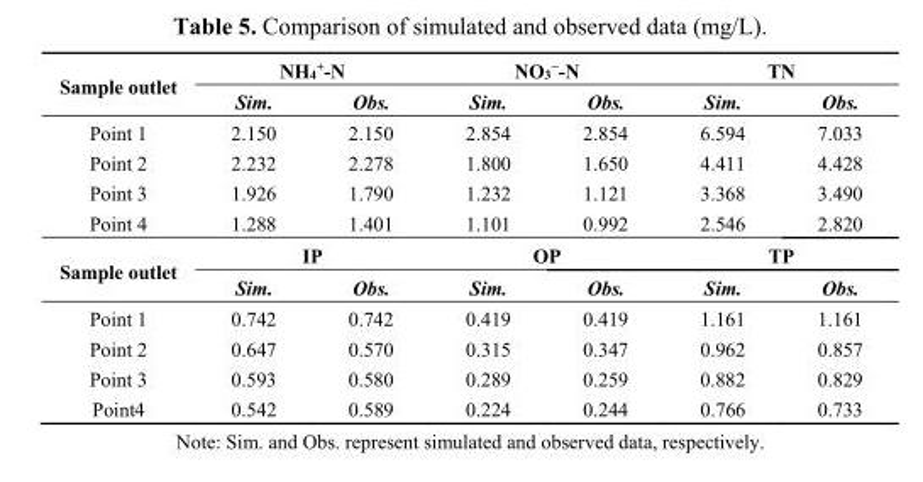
<table><thead><tr><td rowspan="2">Sample outlet</td><td colspan="2">NH<sub>4</sub><sup>+</sup>-N</td><td colspan="2">NO<sub>3</sub><sup>−</sup>-N</td><td colspan="2">TN</td></tr><tr><td>Sim.</td><td>Obs.</td><td>Sim.</td><td>Obs.</td><td>Sim.</td><td>Obs.</td></tr></thead><tbody><tr><td>Point 1</td><td>2.150</td><td>2.150</td><td>2.854</td><td>2.854</td><td>6.594</td><td>7.033</td></tr><tr><td>Point 2</td><td>2.232</td><td>2.278</td><td>1.800</td><td>1.650</td><td>4.411</td><td>4.428</td></tr><tr><td>Point 3</td><td>1.926</td><td>1.790</td><td>1.232</td><td>1.121</td><td>3.368</td><td>3.490</td></tr><tr><td>Point 4</td><td>1.288</td><td>1.401</td><td>1.101</td><td>0.992</td><td>2.546</td><td>2.820</td></tr><tr><td rowspan="2">Sample outlet</td><td colspan="2">IP</td><td colspan="2">OP</td><td colspan="2">TP</td></tr><tr><td>Sim.</td><td>Obs.</td><td>Sim.</td><td>Obs.</td><td>Sim.</td><td>Obs.</td></tr><tr><td>Point 1</td><td>0.742</td><td>0.742</td><td>0.419</td><td>0.419</td><td>1.161</td><td>1.161</td></tr><tr><td>Point 2</td><td>0.647</td><td>0.570</td><td>0.315</td><td>0.347</td><td>0.962</td><td>0.857</td></tr><tr><td>Point 3</td><td>0.593</td><td>0.580</td><td>0.289</td><td>0.259</td><td>0.882</td><td>0.829</td></tr><tr><td>Point4</td><td>0.542</td><td>0.589</td><td>0.224</td><td>0.244</td><td>0.766</td><td>0.733</td></tr></tbody></table>